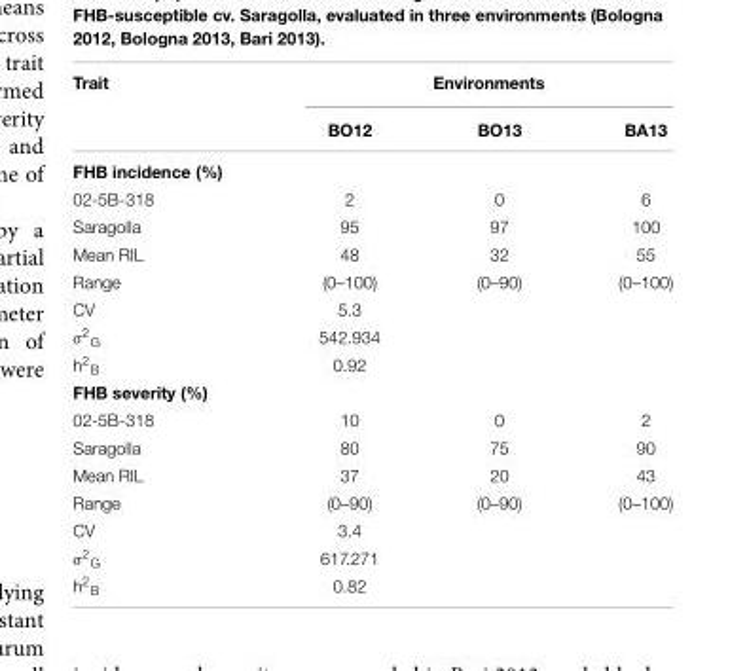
<table><thead><tr><td rowspan="2">Trait</td><td colspan="3">Environments</td></tr><tr><td>BO12</td><td>BO13</td><td>BA13</td></tr></thead><tbody><tr><td colspan="4">FHB incidence (%)</td></tr><tr><td>02-5B-318</td><td>2</td><td>0</td><td>6</td></tr><tr><td>Saragolla</td><td>95</td><td>97</td><td>100</td></tr><tr><td>Mean RIL</td><td>48</td><td>32</td><td>55</td></tr><tr><td>Range</td><td>(0–100)</td><td>(0–90)</td><td>(0–100)</td></tr><tr><td>CV</td><td>5.3</td><td></td><td></td></tr><tr><td>σ<sup>2</sup><sub>G</sub></td><td>542.934</td><td></td><td></td></tr><tr><td>h<sup>2</sup><sub>B</sub></td><td>0.92</td><td></td><td></td></tr><tr><td colspan="4">FHB severity (%)</td></tr><tr><td>02-5B-318</td><td>10</td><td>0</td><td>2</td></tr><tr><td>Saragolla</td><td>80</td><td>75</td><td>90</td></tr><tr><td>Mean RIL</td><td>37</td><td>20</td><td>43</td></tr><tr><td>Range</td><td>(0–90)</td><td>(0–90)</td><td>(0–100)</td></tr><tr><td>CV</td><td>3.4</td><td></td><td></td></tr><tr><td>σ<sup>2</sup><sub>G</sub></td><td>617.271</td><td></td><td></td></tr><tr><td>h<sup>2</sup><sub>B</sub></td><td>0.82</td><td></td><td></td></tr></tbody></table>